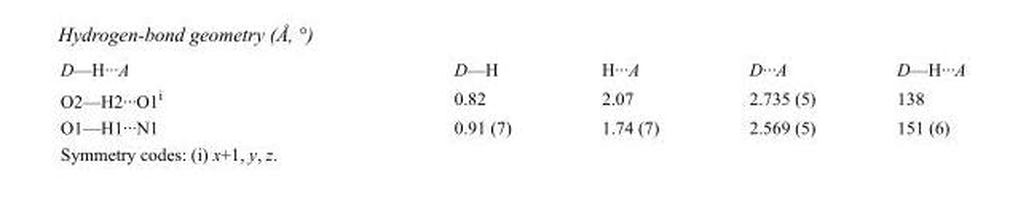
<table><tbody><tr><td>D—H···A</td><td>D—H</td><td>H···A</td><td>D···A</td><td>D—H···A</td></tr><tr><td>O2—H2···O1<sup>i</sup></td><td>0.82</td><td>2.07</td><td>2.735 (5)</td><td>138</td></tr><tr><td>O1—H1···N1</td><td>0.91 (7)</td><td>1.74 (7)</td><td>2.569 (5)</td><td>151 (6)</td></tr></tbody></table>